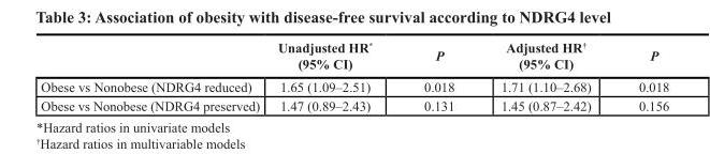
<table><thead><tr><td></td><td>Unadjusted HR* (95% CI)</td><td>P</td><td>Adjusted HR<sup>†</sup> (95% CI)</td><td>P</td></tr></thead><tbody><tr><td>Obese vs Nonobese (NDRG4 reduced)</td><td>1.65 (1.09–2.51)</td><td>0.018</td><td>1.71 (1.10–2.68)</td><td>0.018</td></tr><tr><td>Obese vs Nonobese (NDRG4 preserved)</td><td>1.47 (0.89–2.43)</td><td>0.131</td><td>1.45 (0.87–2.42)</td><td>0.156</td></tr></tbody></table>